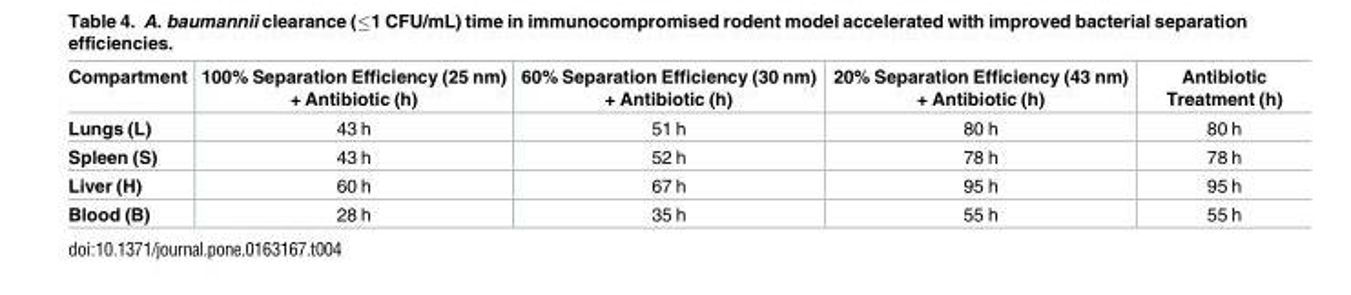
<table><thead><tr><td>Compartment</td><td>100% Separation Efficiency (25 nm) + Antibiotic (h)</td><td>60% Separation Efficiency (30 nm) + Antibiotic (h)</td><td>20% Separation Efficiency (43 nm) + Antibiotic (h)</td><td>Antibiotic Treatment (h)</td></tr></thead><tbody><tr><td>Lungs (L)</td><td>43 h</td><td>51 h</td><td>80 h</td><td>80 h</td></tr><tr><td>Spleen (S)</td><td>43 h</td><td>52 h</td><td>78 h</td><td>78 h</td></tr><tr><td>Liver (H)</td><td>60 h</td><td>67 h</td><td>95 h</td><td>95 h</td></tr><tr><td>Blood (B)</td><td>28 h</td><td>35 h</td><td>55 h</td><td>55 h</td></tr></tbody></table>